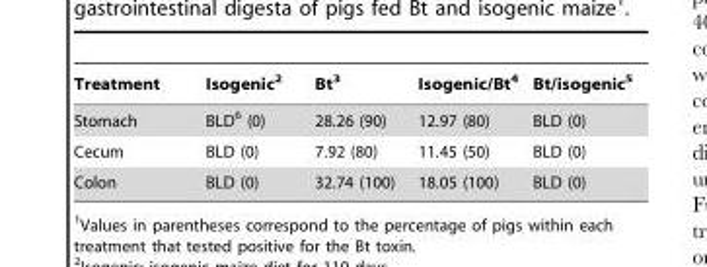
<table><thead><tr><td>Treatment</td><td>Isogenic<sup>2</sup></td><td>Bt<sup>3</sup></td><td>Isogenic/Bt<sup>4</sup></td><td>Bt/isogenic<sup>5</sup></td></tr></thead><tbody><tr><td>Stomach</td><td>BLD<sup>6</sup> (0)</td><td>28.26 (90)</td><td>12.97 (80)</td><td>BLD (0)</td></tr><tr><td>Cecum</td><td>BLD (0)</td><td>7.92 (80)</td><td>11.45 (50)</td><td>BLD (0)</td></tr><tr><td>Colon</td><td>BLD (0)</td><td>32.74 (100)</td><td>18.05 (100)</td><td>BLD (0)</td></tr></tbody></table>